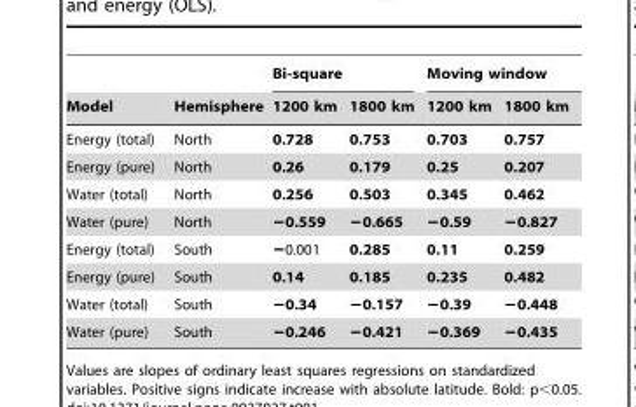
<table><thead><tr><td rowspan="2">Model</td><td rowspan="2">Hemisphere</td><td colspan="2">Bi-square</td><td colspan="2">Moving window</td></tr><tr><td>1200 km</td><td>1800 km</td><td>1200 km</td><td>1800 km</td></tr></thead><tbody><tr><td>Energy (total)</td><td>North</td><td>0.728</td><td>0.753</td><td>0.703</td><td>0.757</td></tr><tr><td>Energy (pure)</td><td>North</td><td>0.26</td><td>0.179</td><td>0.25</td><td>0.207</td></tr><tr><td>Water (total)</td><td>North</td><td>0.256</td><td>0.503</td><td>0.345</td><td>0.462</td></tr><tr><td>Water (pure)</td><td>North</td><td>−0.559</td><td>−0.665</td><td>−0.59</td><td>−0.827</td></tr><tr><td>Energy (total)</td><td>South</td><td>−0.001</td><td>0.285</td><td>0.11</td><td>0.259</td></tr><tr><td>Energy (pure)</td><td>South</td><td>0.14</td><td>0.185</td><td>0.235</td><td>0.482</td></tr><tr><td>Water (total)</td><td>South</td><td>−0.34</td><td>−0.157</td><td>−0.39</td><td>−0.448</td></tr><tr><td>Water (pure)</td><td>South</td><td>−0.246</td><td>−0.421</td><td>−0.369</td><td>−0.435</td></tr></tbody></table>